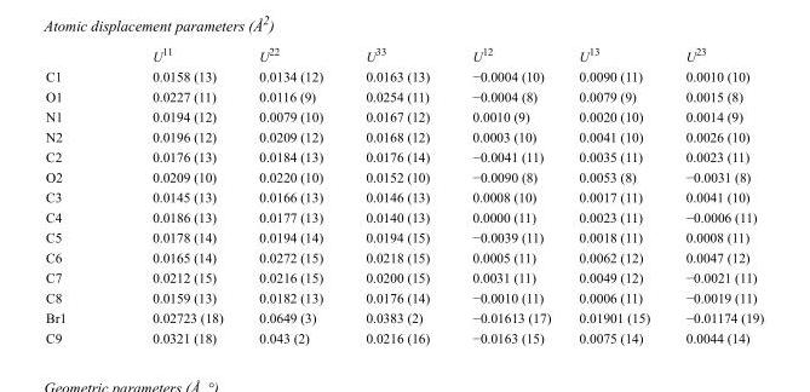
<table><thead><tr><td></td><td>U<sup>11</sup></td><td>U<sup>22</sup></td><td>U<sup>33</sup></td><td>U<sup>12</sup></td><td>U<sup>13</sup></td><td>U<sup>23</sup></td></tr></thead><tbody><tr><td>C1</td><td>0.0158 (13)</td><td>0.0134 (12)</td><td>0.0163 (13)</td><td>−0.0004 (10)</td><td>0.0090 (11)</td><td>0.0010 (10)</td></tr><tr><td>O1</td><td>0.0227 (11)</td><td>0.0116 (9)</td><td>0.0254 (11)</td><td>−0.0004 (8)</td><td>0.0079 (9)</td><td>0.0015 (8)</td></tr><tr><td>N1</td><td>0.0194 (12)</td><td>0.0079 (10)</td><td>0.0167 (12)</td><td>0.0010 (9)</td><td>0.0020 (10)</td><td>0.0014 (9)</td></tr><tr><td>N2</td><td>0.0196 (12)</td><td>0.0209 (12)</td><td>0.0168 (12)</td><td>0.0003 (10)</td><td>0.0041 (10)</td><td>0.0026 (10)</td></tr><tr><td>C2</td><td>0.0176 (13)</td><td>0.0184 (13)</td><td>0.0176 (14)</td><td>−0.0041 (11)</td><td>0.0035 (11)</td><td>0.0023 (11)</td></tr><tr><td>O2</td><td>0.0209 (10)</td><td>0.0220 (10)</td><td>0.0152 (10)</td><td>−0.0090 (8)</td><td>0.0053 (8)</td><td>−0.0031 (8)</td></tr><tr><td>C3</td><td>0.0145 (13)</td><td>0.0166 (13)</td><td>0.0146 (13)</td><td>0.0008 (10)</td><td>0.0017 (11)</td><td>0.0041 (10)</td></tr><tr><td>C4</td><td>0.0186 (13)</td><td>0.0177 (13)</td><td>0.0140 (13)</td><td>0.0000 (11)</td><td>0.0023 (11)</td><td>−0.0006 (11)</td></tr><tr><td>C5</td><td>0.0178 (14)</td><td>0.0194 (14)</td><td>0.0194 (15)</td><td>−0.0039 (11)</td><td>0.0018 (11)</td><td>0.0008 (11)</td></tr><tr><td>C6</td><td>0.0165 (14)</td><td>0.0272 (15)</td><td>0.0218 (15)</td><td>0.0005 (11)</td><td>0.0062 (12)</td><td>0.0047 (12)</td></tr><tr><td>C7</td><td>0.0212 (15)</td><td>0.0216 (15)</td><td>0.0200 (15)</td><td>0.0031 (11)</td><td>0.0049 (12)</td><td>−0.0021 (11)</td></tr><tr><td>C8</td><td>0.0159 (13)</td><td>0.0182 (13)</td><td>0.0176 (14)</td><td>−0.0010 (11)</td><td>0.0006 (11)</td><td>−0.0019 (11)</td></tr><tr><td>Br1</td><td>0.02723 (18)</td><td>0.0649 (3)</td><td>0.0383 (2)</td><td>−0.01613 (17)</td><td>0.01901 (15)</td><td>−0.01174 (19)</td></tr><tr><td>C9</td><td>0.0321 (18)</td><td>0.043 (2)</td><td>0.0216 (16)</td><td>−0.0163 (15)</td><td>0.0075 (14)</td><td>0.0044 (14)</td></tr></tbody></table>